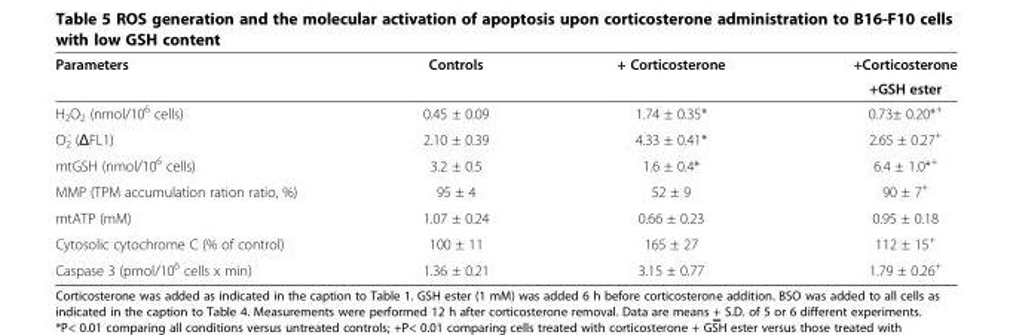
<table><thead><tr><td rowspan="2">Parameters</td><td rowspan="2">Controls</td><td rowspan="2">+ Corticosterone</td><td rowspan="2">+Corticosterone +GSH ester</td></tr><tr></tr></thead><tbody><tr><td>H<sub>2</sub>O<sub>2</sub> (nmol/10<sup>6</sup> cells)</td><td>0.45 ± 0.09</td><td>1.74 ± 0.35*</td><td>0.73± 0.20*<sup>+</sup></td></tr><tr><td>O<sub>2</sub> <sup>.-</sup> (ΔFL1)</td><td>2.10 ± 0.39</td><td>4.33 ± 0.41*</td><td>2.65 ± 0.27<sup>+</sup></td></tr><tr><td>mtGSH (nmol/10<sup>6</sup> cells)</td><td>3.2 ± 0.5</td><td>1.6 ± 0.4*</td><td>6.4 ± 1.0*<sup>+</sup></td></tr><tr><td>MMP (TPM accumulation ration ratio, %)</td><td>95 ± 4</td><td>52 ± 9</td><td>90 ± 7<sup>+</sup></td></tr><tr><td>mtATP (mM)</td><td>1.07 ± 0.24</td><td>0.66 ± 0.23</td><td>0.95 ± 0.18</td></tr><tr><td>Cytosolic cytochrome C (% of control)</td><td>100 ± 11</td><td>165 ± 27</td><td>112 ± 15<sup>+</sup></td></tr><tr><td>Caspase 3 (pmol/10<sup>6</sup> cells x min)</td><td>1.36 ± 0.21</td><td>3.15 ± 0.77</td><td>1.79 ± 0.26<sup>+</sup></td></tr></tbody></table>